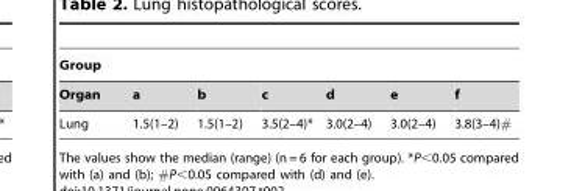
<table><thead><tr><td colspan="7">Group</td></tr><tr><td>Organ</td><td>a</td><td>b</td><td>c</td><td>d</td><td>e</td><td>f</td></tr></thead><tbody><tr><td>Lung</td><td>1.5(1–2)</td><td>1.5(1–2)</td><td>3.5(2–4)*</td><td>3.0(2–4)</td><td>3.0(2–4)</td><td>3.8(3–4)#</td></tr></tbody></table>